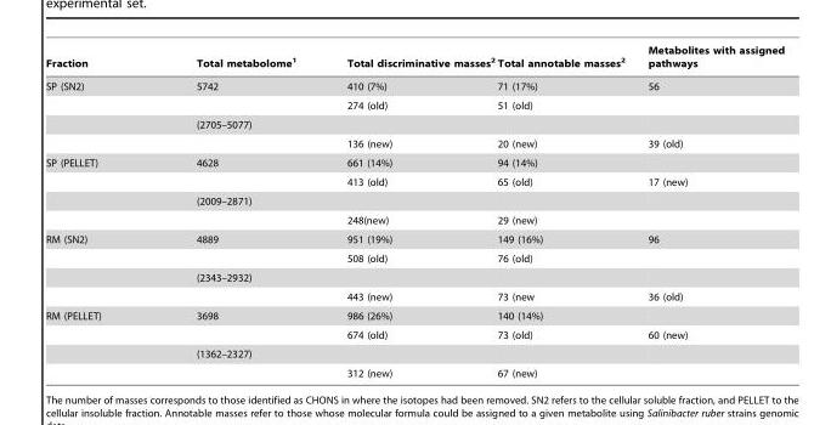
<table><thead><tr><td>Fraction</td><td>Total metabolome<sup>1</sup></td><td>Total discriminative masses<sup>2</sup></td><td>Total annotable masses<sup>2</sup></td><td>Metabolites with assigned pathways</td></tr></thead><tbody><tr><td rowspan="4">SP (SN2)</td><td>5742</td><td>410 (7%)</td><td>71 (17%)</td><td>56</td></tr><tr><td></td><td>274 (old)</td><td>51 (old)</td><td></td></tr><tr><td>(2705–5077)</td><td></td><td></td><td></td></tr><tr><td></td><td>136 (new)</td><td>20 (new)</td><td>39 (old)</td></tr><tr><td rowspan="4">SP (PELLET)</td><td>4628</td><td>661 (14%)</td><td>94 (14%)</td><td></td></tr><tr><td></td><td>413 (old)</td><td>65 (old)</td><td>17 (new)</td></tr><tr><td>(2009–2871)</td><td></td><td></td><td></td></tr><tr><td></td><td>248(new)</td><td>29 (new)</td><td></td></tr><tr><td rowspan="4">RM (SN2)</td><td>4889</td><td>951 (19%)</td><td>149 (16%)</td><td>96</td></tr><tr><td></td><td>508 (old)</td><td>76 (old)</td><td></td></tr><tr><td>(2343–2932)</td><td></td><td></td><td></td></tr><tr><td></td><td>443 (new)</td><td>73 (new</td><td>36 (old)</td></tr><tr><td rowspan="4">RM (PELLET)</td><td>3698</td><td>986 (26%)</td><td>140 (14%)</td><td></td></tr><tr><td></td><td>674 (old)</td><td>73 (old)</td><td>60 (new)</td></tr><tr><td>(1362–2327)</td><td></td><td></td><td></td></tr><tr><td></td><td>312 (new)</td><td>67 (new)</td><td></td></tr></tbody></table>